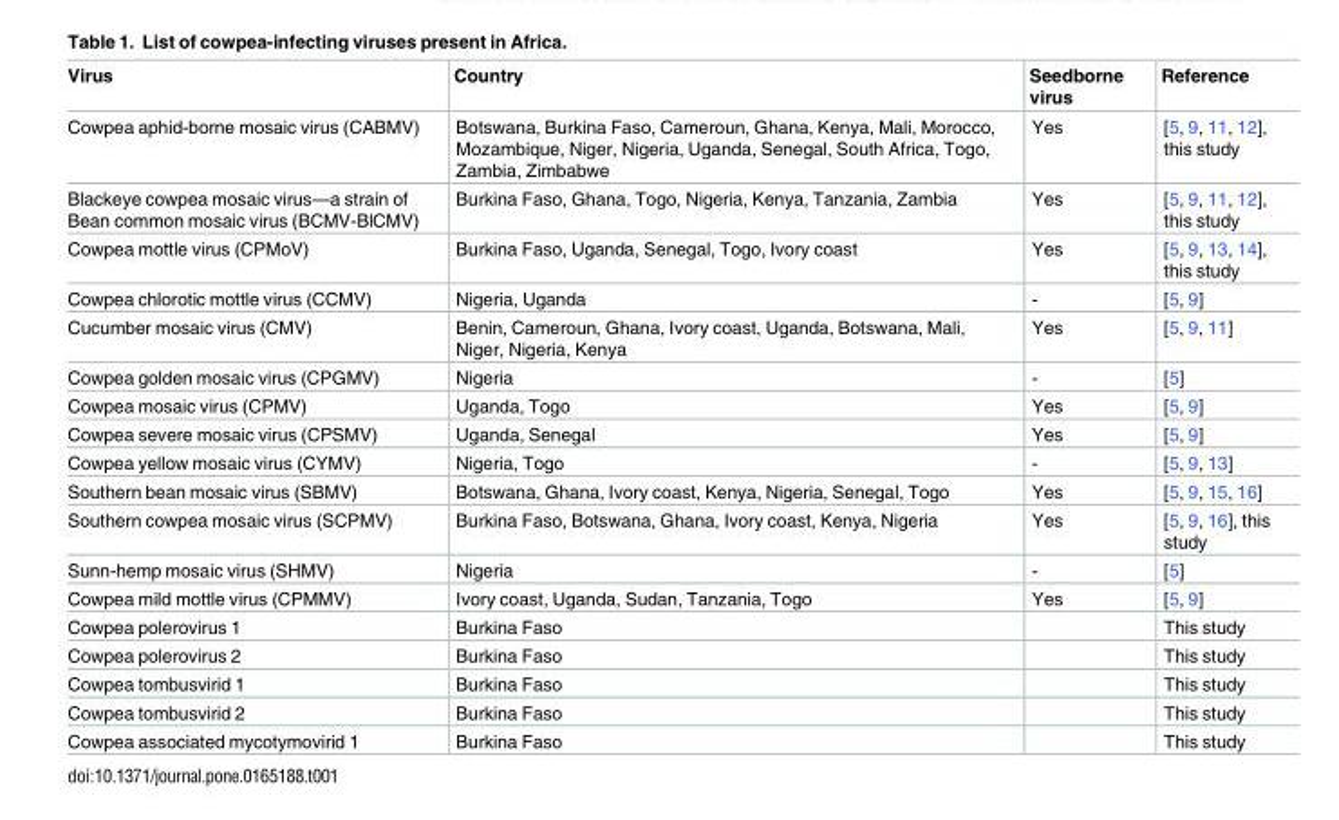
<table><thead><tr><td>Virus</td><td>Country</td><td>Seedborne virus</td><td>Reference</td></tr></thead><tbody><tr><td>Cowpea aphid-borne mosaic virus (CABMV)</td><td>Botswana, Burkina Faso, Cameroun, Ghana, Kenya, Mali, Morocco, Mozambique, Niger, Nigeria, Uganda, Senegal, South Africa, Togo, Zambia, Zimbabwe</td><td>Yes</td><td>[5, 9, 11, 12], this study</td></tr><tr><td>Blackeye cowpea mosaic virus—a strain of Bean common mosaic virus (BCMV-BlCMV)</td><td>Burkina Faso, Ghana, Togo, Nigeria, Kenya, Tanzania, Zambia</td><td>Yes</td><td>[5, 9, 11, 12], this study</td></tr><tr><td>Cowpea mottle virus (CPMoV)</td><td>Burkina Faso, Uganda, Senegal, Togo, Ivory coast</td><td>Yes</td><td>[5, 9, 13, 14], this study</td></tr><tr><td>Cowpea chlorotic mottle virus (CCMV)</td><td>Nigeria, Uganda</td><td>-</td><td>[5, 9]</td></tr><tr><td>Cucumber mosaic virus (CMV)</td><td>Benin, Cameroun, Ghana, Ivory coast, Uganda, Botswana, Mali, Niger, Nigeria, Kenya</td><td>Yes</td><td>[5, 9, 11]</td></tr><tr><td>Cowpea golden mosaic virus (CPGMV)</td><td>Nigeria</td><td>-</td><td>[5]</td></tr><tr><td>Cowpea mosaic virus (CPMV)</td><td>Uganda, Togo</td><td>Yes</td><td>[5, 9]</td></tr><tr><td>Cowpea severe mosaic virus (CPSMV)</td><td>Uganda, Senegal</td><td>Yes</td><td>[5, 9]</td></tr><tr><td>Cowpea yellow mosaic virus (CYMV)</td><td>Nigeria, Togo</td><td>-</td><td>[5, 9, 13]</td></tr><tr><td>Southern bean mosaic virus (SBMV)</td><td>Botswana, Ghana, Ivory coast, Kenya, Nigeria, Senegal, Togo</td><td>Yes</td><td>[5, 9, 15, 16]</td></tr><tr><td>Southern cowpea mosaic virus (SCPMV)</td><td>Burkina Faso, Botswana, Ghana, Ivory coast, Kenya, Nigeria</td><td>Yes</td><td>[5, 9, 16], this study</td></tr><tr><td>Sunn-hemp mosaic virus (SHMV)</td><td>Nigeria</td><td>-</td><td>[5]</td></tr><tr><td>Cowpea mild mottle virus (CPMMV)</td><td>Ivory coast, Uganda, Sudan, Tanzania, Togo</td><td>Yes</td><td>[5, 9]</td></tr><tr><td>Cowpea polerovirus 1</td><td>Burkina Faso</td><td></td><td>This study</td></tr><tr><td>Cowpea polerovirus 2</td><td>Burkina Faso</td><td></td><td>This study</td></tr><tr><td>Cowpea tombusvirid 1</td><td>Burkina Faso</td><td></td><td>This study</td></tr><tr><td>Cowpea tombusvirid 2</td><td>Burkina Faso</td><td></td><td>This study</td></tr><tr><td>Cowpea associated mycotymovirid 1</td><td>Burkina Faso</td><td></td><td>This study</td></tr></tbody></table>